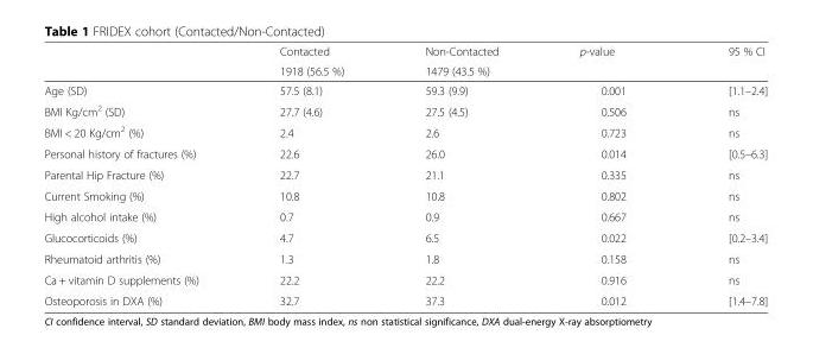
<table><thead><tr><td rowspan="2"></td><td rowspan="2">Contacted 1918 (56.5 %)</td><td rowspan="2">Non-Contacted 1479 (43.5 %)</td><td rowspan="2">p-value</td><td rowspan="2">95 % CI</td></tr><tr></tr></thead><tbody><tr><td>Age (SD)</td><td>57.5 (8.1)</td><td>59.3 (9.9)</td><td>0.001</td><td>[1.1–2.4]</td></tr><tr><td>BMI Kg/cm<sup>2</sup> (SD)</td><td>27.7 (4.6)</td><td>27.5 (4.5)</td><td>0.506</td><td>ns</td></tr><tr><td>BMI &lt; 20 Kg/cm<sup>2</sup> (%)</td><td>2.4</td><td>2.6</td><td>0.723</td><td>ns</td></tr><tr><td>Personal history of fractures (%)</td><td>22.6</td><td>26.0</td><td>0.014</td><td>[0.5–6.3]</td></tr><tr><td>Parental Hip Fracture (%)</td><td>22.7</td><td>21.1</td><td>0.335</td><td>ns</td></tr><tr><td>Current Smoking (%)</td><td>10.8</td><td>10.8</td><td>0.802</td><td>ns</td></tr><tr><td>High alcohol intake (%)</td><td>0.7</td><td>0.9</td><td>0.667</td><td>ns</td></tr><tr><td>Glucocorticoids (%)</td><td>4.7</td><td>6.5</td><td>0.022</td><td>[0.2–3.4]</td></tr><tr><td>Rheumatoid arthritis (%)</td><td>1.3</td><td>1.8</td><td>0.158</td><td>ns</td></tr><tr><td>Ca + vitamin D supplements (%)</td><td>22.2</td><td>22.2</td><td>0.916</td><td>ns</td></tr><tr><td>Osteoporosis in DXA (%)</td><td>32.7</td><td>37.3</td><td>0.012</td><td>[1.4–7.8]</td></tr></tbody></table>